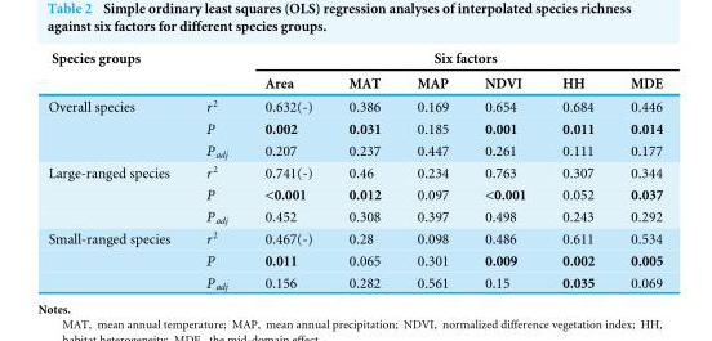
<table><thead><tr><td rowspan="2">Species groups</td><td rowspan="2"></td><td colspan="6">Six factors</td></tr><tr><td>Area</td><td>MAT</td><td>MAP</td><td>NDVI</td><td>HH</td><td>MDE</td></tr></thead><tbody><tr><td rowspan="3">Overall species</td><td>r<sup>2</sup></td><td>0.632(-)</td><td>0.386</td><td>0.169</td><td>0.654</td><td>0.684</td><td>0.446</td></tr><tr><td>P</td><td>0.002</td><td>0.031</td><td>0.185</td><td>0.001</td><td>0.011</td><td>0.014</td></tr><tr><td>P<sub>adj</sub></td><td>0.207</td><td>0.237</td><td>0.447</td><td>0.261</td><td>0.111</td><td>0.177</td></tr><tr><td rowspan="3">Large-ranged species</td><td>r<sup>2</sup></td><td>0.741(-)</td><td>0.46</td><td>0.234</td><td>0.763</td><td>0.307</td><td>0.344</td></tr><tr><td>P</td><td>&lt;0.001</td><td>0.012</td><td>0.097</td><td>&lt;0.001</td><td>0.052</td><td>0.037</td></tr><tr><td>P<sub>adj</sub></td><td>0.452</td><td>0.308</td><td>0.397</td><td>0.498</td><td>0.243</td><td>0.292</td></tr><tr><td rowspan="3">Small-ranged species</td><td>r<sup>2</sup></td><td>0.467(-)</td><td>0.28</td><td>0.098</td><td>0.486</td><td>0.611</td><td>0.534</td></tr><tr><td>P</td><td>0.011</td><td>0.065</td><td>0.301</td><td>0.009</td><td>0.002</td><td>0.005</td></tr><tr><td>P<sub>adj</sub></td><td>0.156</td><td>0.282</td><td>0.561</td><td>0.15</td><td>0.035</td><td>0.069</td></tr></tbody></table>